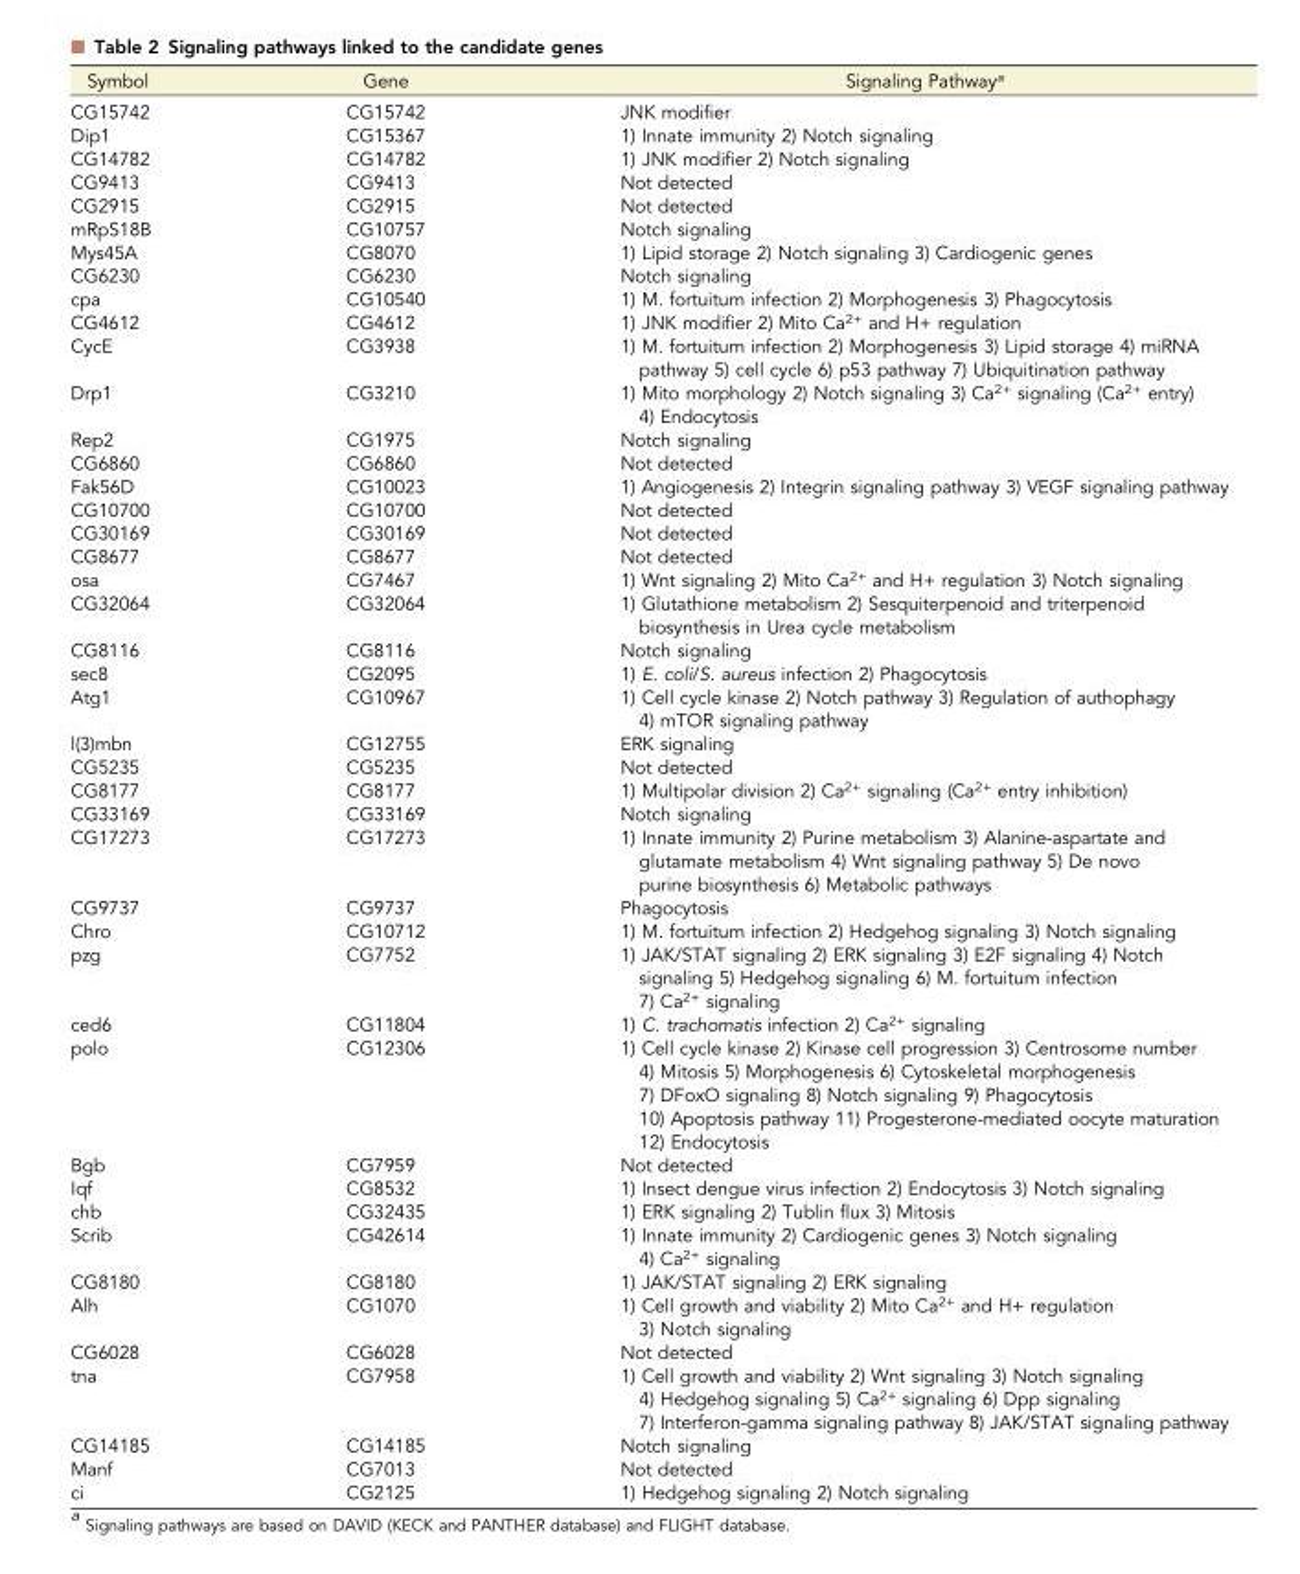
<table><thead><tr><td>Symbol</td><td>Gene</td><td>Signaling Pathway<sup>a</sup></td></tr></thead><tbody><tr><td>CG15742</td><td>CG15742</td><td>JNK modifier</td></tr><tr><td>Dip1</td><td>CG15367</td><td>1) Innate immunity 2) Notch signaling</td></tr><tr><td>CG14782</td><td>CG14782</td><td>1) JNK modifier 2) Notch signaling</td></tr><tr><td>CG9413</td><td>CG9413</td><td>Not detected</td></tr><tr><td>CG2915</td><td>CG2915</td><td>Not detected</td></tr><tr><td>mRpS18B</td><td>CG10757</td><td>Notch signaling</td></tr><tr><td>Mys45A</td><td>CG8070</td><td>1) Lipid storage 2) Notch signaling 3) Cardiogenic genes</td></tr><tr><td>CG6230</td><td>CG6230</td><td>Notch signaling</td></tr><tr><td>cpa</td><td>CG10540</td><td>1) M. fortuitum infection 2) Morphogenesis 3) Phagocytosis</td></tr><tr><td>CG4612</td><td>CG4612</td><td>1) JNK modifier 2) Mito Ca<sup>2+</sup> and H+ regulation</td></tr><tr><td>CycE</td><td>CG3938</td><td>1) M. fortuitum infection 2) Morphogenesis 3) Lipid storage 4) miRNA pathway 5) cell cycle 6) p53 pathway 7) Ubiquitination pathway</td></tr><tr><td>Drp1</td><td>CG3210</td><td>1) Mito morphology 2) Notch signaling 3) Ca<sup>2+</sup> signaling (Ca<sup>2+</sup> entry) 4) Endocytosis</td></tr><tr><td>Rep2</td><td>CG1975</td><td>Notch signaling</td></tr><tr><td>CG6860</td><td>CG6860</td><td>Not detected</td></tr><tr><td>Fak56D</td><td>CG10023</td><td>1) Angiogenesis 2) Integrin signaling pathway 3) VEGF signaling pathway</td></tr><tr><td>CG10700</td><td>CG10700</td><td>Not detected</td></tr><tr><td>CG30169</td><td>CG30169</td><td>Not detected</td></tr><tr><td>CG8677</td><td>CG8677</td><td>Not detected</td></tr><tr><td>osa</td><td>CG7467</td><td>1) Wnt signaling 2) Mito Ca<sup>2+</sup> and H+ regulation 3) Notch signaling</td></tr><tr><td>CG32064</td><td>CG32064</td><td>1) Glutathione metabolism 2) Sesquiterpenoid and triterpenoid biosynthesis in Urea cycle metabolism</td></tr><tr><td>CG8116</td><td>CG8116</td><td>Notch signaling</td></tr><tr><td>sec8</td><td>CG2095</td><td>1) E. coli/S. aureus infection 2) Phagocytosis</td></tr><tr><td>Atg1</td><td>CG10967</td><td>1) Cell cycle kinase 2) Notch pathway 3) Regulation of authophagy 4) mTOR signaling pathway</td></tr><tr><td>l(3)mbn</td><td>CG12755</td><td>ERK signaling</td></tr><tr><td>CG5235</td><td>CG5235</td><td>Not detected</td></tr><tr><td>CG8177</td><td>CG8177</td><td>1) Multipolar division 2) Ca<sup>2+</sup> signaling (Ca<sup>2+</sup> entry inhibition)</td></tr><tr><td>CG33169</td><td>CG33169</td><td>Notch signaling</td></tr><tr><td>CG17273</td><td>CG17273</td><td>1) Innate immunity 2) Purine metabolism 3) Alanine-aspartate and glutamate metabolism 4) Wnt signaling pathway 5) De novo purine biosynthesis 6) Metabolic pathways</td></tr><tr><td>CG9737</td><td>CG9737</td><td>Phagocytosis</td></tr><tr><td>Chro</td><td>CG10712</td><td>1) M. fortuitum infection 2) Hedgehog signaling 3) Notch signaling</td></tr><tr><td>pzg</td><td>CG7752</td><td>1) JAK/STAT signaling 2) ERK signaling 3) E2F signaling 4) Notch signaling 5) Hedgehog signaling 6) M. fortuitum infection 7) Ca<sup>2+</sup> signaling</td></tr><tr><td>ced6</td><td>CG11804</td><td>1) C. trachomatis infection 2) Ca<sup>2+</sup> signaling</td></tr><tr><td>polo</td><td>CG12306</td><td>1) Cell cycle kinase 2) Kinase cell progression 3) Centrosome number 4) Mitosis 5) Morphogenesis 6) Cytoskeletal morphogenesis 7) DFoxO signaling 8) Notch signaling 9) Phagocytosis 10) Apoptosis pathway 11) Progesterone-mediated oocyte maturation 12) Endocytosis</td></tr><tr><td>Bgb</td><td>CG7959</td><td>Not detected</td></tr><tr><td>Iqf</td><td>CG8532</td><td>1) Insect dengue virus infection 2) Endocytosis 3) Notch signaling</td></tr><tr><td>chb</td><td>CG32435</td><td>1) ERK signaling 2) Tublin flux 3) Mitosis</td></tr><tr><td>Scrib</td><td>CG42614</td><td>1) Innate immunity 2) Cardiogenic genes 3) Notch signaling 4) Ca<sup>2+</sup> signaling</td></tr><tr><td>CG8180</td><td>CG8180</td><td>1) JAK/STAT signaling 2) ERK signaling</td></tr><tr><td>Alh</td><td>CG1070</td><td>1) Cell growth and viability 2) Mito Ca<sup>2+</sup> and H+ regulation 3) Notch signaling</td></tr><tr><td>CG6028</td><td>CG6028</td><td>Not detected</td></tr><tr><td>tna</td><td>CG7958</td><td>1) Cell growth and viability 2) Wnt signaling 3) Notch signaling 4) Hedgehog signaling 5) Ca<sup>2+</sup> signaling 6) Dpp signaling 7) Interferon-gamma signaling pathway 8) JAK/STAT signaling pathway</td></tr><tr><td>CG14185</td><td>CG14185</td><td>Notch signaling</td></tr><tr><td>Manf</td><td>CG7013</td><td>Not detected</td></tr><tr><td>ci</td><td>CG2125</td><td>1) Hedgehog signaling 2) Notch signaling</td></tr></tbody></table>